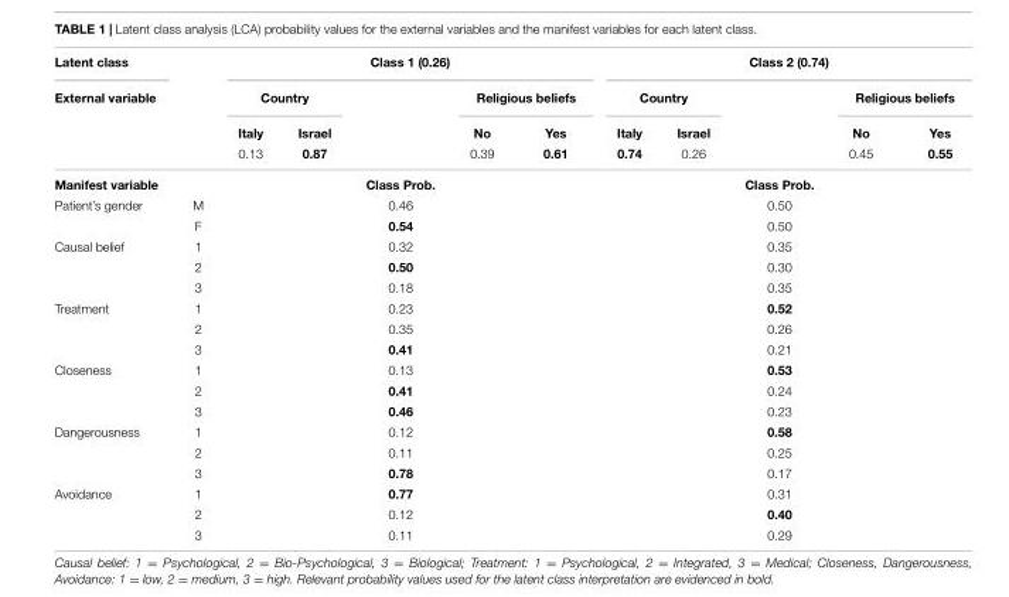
<table><thead><tr><td rowspan="4">Latent class External variable</td><td rowspan="4"></td><td colspan="5">Class 1 (0.26)</td><td colspan="5">Class 2 (0.74)</td></tr><tr><td colspan="2">Country</td><td rowspan="3"></td><td colspan="2">Religious beliefs</td><td colspan="2">Country</td><td rowspan="3"></td><td colspan="2">Religious beliefs</td></tr><tr><td rowspan="2">Italy 0.13</td><td rowspan="2">Israel 0.87</td><td rowspan="2">No 0.39</td><td rowspan="2">Yes 0.61</td><td rowspan="2">Italy 0.74</td><td rowspan="2">Israel 0.26</td><td rowspan="2">No 0.45</td><td rowspan="2">Yes 0.55</td></tr><tr></tr></thead><tbody><tr><td>Manifest variable</td><td></td><td></td><td></td><td>Class Prob.</td><td></td><td></td><td></td><td></td><td>Class Prob.</td><td></td><td></td></tr><tr><td rowspan="2">Patient’s gender</td><td>M</td><td></td><td></td><td>0.46</td><td></td><td></td><td></td><td></td><td>0.50</td><td></td><td></td></tr><tr><td>F</td><td></td><td></td><td>0.54</td><td></td><td></td><td></td><td></td><td>0.50</td><td></td><td></td></tr><tr><td rowspan="3">Causal belief</td><td>1</td><td></td><td></td><td>0.32</td><td></td><td></td><td></td><td></td><td>0.35</td><td></td><td></td></tr><tr><td>2</td><td></td><td></td><td>0.50</td><td></td><td></td><td></td><td></td><td>0.30</td><td></td><td></td></tr><tr><td>3</td><td></td><td></td><td>0.18</td><td></td><td></td><td></td><td></td><td>0.35</td><td></td><td></td></tr><tr><td rowspan="3">Treatment</td><td>1</td><td></td><td></td><td>0.23</td><td></td><td></td><td></td><td></td><td>0.52</td><td></td><td></td></tr><tr><td>2</td><td></td><td></td><td>0.35</td><td></td><td></td><td></td><td></td><td>0.26</td><td></td><td></td></tr><tr><td>3</td><td></td><td></td><td>0.41</td><td></td><td></td><td></td><td></td><td>0.21</td><td></td><td></td></tr><tr><td rowspan="3">Closeness</td><td>1</td><td></td><td></td><td>0.13</td><td></td><td></td><td></td><td></td><td>0.53</td><td></td><td></td></tr><tr><td>2</td><td></td><td></td><td>0.41</td><td></td><td></td><td></td><td></td><td>0.24</td><td></td><td></td></tr><tr><td>3</td><td></td><td></td><td>0.46</td><td></td><td></td><td></td><td></td><td>0.23</td><td></td><td></td></tr><tr><td rowspan="3">Dangerousness</td><td>1</td><td></td><td></td><td>0.12</td><td></td><td></td><td></td><td></td><td>0.58</td><td></td><td></td></tr><tr><td>2</td><td></td><td></td><td>0.11</td><td></td><td></td><td></td><td></td><td>0.25</td><td></td><td></td></tr><tr><td>3</td><td></td><td></td><td>0.78</td><td></td><td></td><td></td><td></td><td>0.17</td><td></td><td></td></tr><tr><td rowspan="3">Avoidance</td><td>1</td><td></td><td></td><td>0.77</td><td></td><td></td><td></td><td></td><td>0.31</td><td></td><td></td></tr><tr><td>2</td><td></td><td></td><td>0.12</td><td></td><td></td><td></td><td></td><td>0.40</td><td></td><td></td></tr><tr><td>3</td><td></td><td></td><td>0.11</td><td></td><td></td><td></td><td></td><td>0.29</td><td></td><td></td></tr></tbody></table>